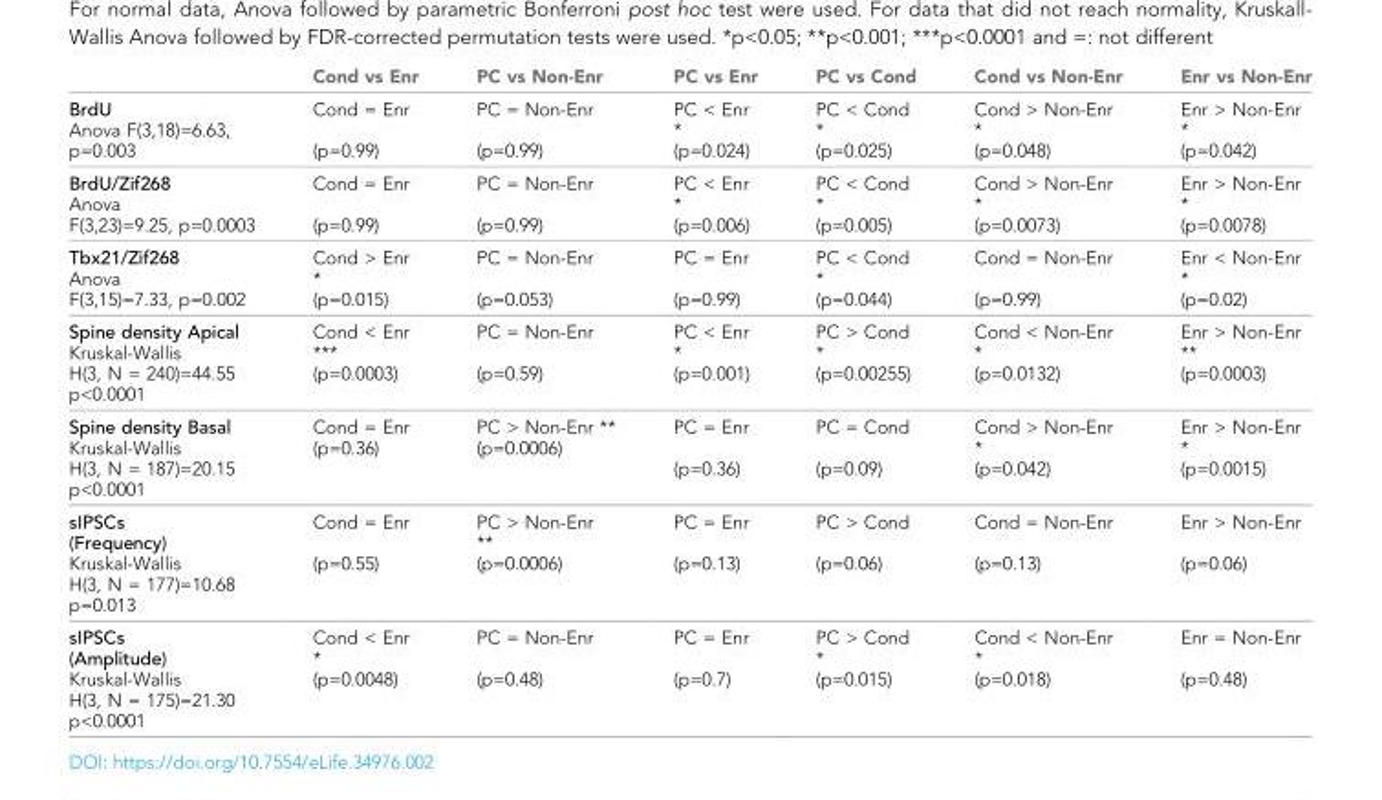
<table><thead><tr><td></td><td>Cond vs Enr</td><td>PC vs Non-Enr</td><td>PC vs Enr</td><td>PC vs Cond</td><td>Cond vs Non-Enr</td><td>Enr vs Non-Enr</td></tr></thead><tbody><tr><td>BrdU Anova F(3,18)=6.63, p=0.003</td><td>Cond = Enr (p=0.99)</td><td>PC = Non-Enr (p=0.99)</td><td>PC &lt; Enr * (p=0.024)</td><td>PC &lt; Cond * (p=0.025)</td><td>Cond &gt; Non-Enr * (p=0.048)</td><td>Enr &gt; Non-Enr * (p=0.042)</td></tr><tr><td>BrdU/Zif268 Anova F(3,23)=9.25, p=0.0003</td><td>Cond = Enr (p=0.99)</td><td>PC = Non-Enr (p=0.99)</td><td>PC &lt; Enr * (p=0.006)</td><td>PC &lt; Cond * (p=0.005)</td><td>Cond &gt; Non-Enr * (p=0.0073)</td><td>Enr &gt; Non-Enr * (p=0.0078)</td></tr><tr><td>Tbx21/Zif268 Anova F(3,15)=7.33, p=0.002</td><td>Cond &gt; Enr * (p=0.015)</td><td>PC = Non-Enr (p=0.053)</td><td>PC = Enr (p=0.99)</td><td>PC &lt; Cond * (p=0.044)</td><td>Cond = Non-Enr (p=0.99)</td><td>Enr &lt; Non-Enr * (p=0.02)</td></tr><tr><td>Spine density Apical Kruskal-Wallis H(3, N = 240)=44.55 p&lt;0.0001</td><td>Cond &lt; Enr *** (p=0.0003)</td><td>PC = Non-Enr (p=0.59)</td><td>PC &lt; Enr * (p=0.001)</td><td>PC &gt; Cond * (p=0.00255)</td><td>Cond &lt; Non-Enr * (p=0.0132)</td><td>Enr &gt; Non-Enr ** (p=0.0003)</td></tr><tr><td>Spine density Basal Kruskal-Wallis H(3, N = 187)=20.15 p&lt;0.0001</td><td>Cond = Enr (p=0.36)</td><td>PC &gt; Non-Enr ** (p=0.0006)</td><td>PC = Enr (p=0.36)</td><td>PC = Cond (p=0.09)</td><td>Cond &gt; Non-Enr * (p=0.042)</td><td>Enr &gt; Non-Enr * (p=0.0015)</td></tr><tr><td>sIPSCs (Frequency) Kruskal-Wallis H(3, N = 177)=10.68 p=0.013</td><td>Cond = Enr (p=0.55)</td><td>PC &gt; Non-Enr ** (p=0.0006)</td><td>PC = Enr (p=0.13)</td><td>PC &gt; Cond (p=0.06)</td><td>Cond = Non-Enr (p=0.13)</td><td>Enr &gt; Non-Enr (p=0.06)</td></tr><tr><td>sIPSCs (Amplitude) Kruskal-Wallis H(3, N = 175)=21.30 p&lt;0.0001</td><td>Cond &lt; Enr * (p=0.0048)</td><td>PC = Non-Enr (p=0.48)</td><td>PC = Enr (p=0.7)</td><td>PC &gt; Cond * (p=0.015)</td><td>Cond &lt; Non-Enr * (p=0.018)</td><td>Enr = Non-Enr (p=0.48)</td></tr></tbody></table>